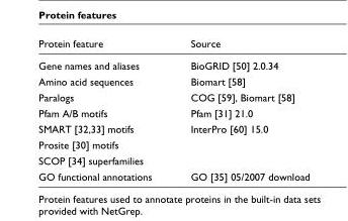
<table><thead><tr><td>Protein feature</td><td>Source</td></tr></thead><tbody><tr><td>Gene names and aliases</td><td>BioGRID [50] 2.0.34</td></tr><tr><td>Amino acid sequences</td><td>Biomart [58]</td></tr><tr><td>Paralogs</td><td>COG [59], Biomart [58]</td></tr><tr><td>Pfam A/B motifs</td><td>Pfam [31] 21.0</td></tr><tr><td>SMART [32,33] motifs</td><td>InterPro [60] 15.0</td></tr><tr><td colspan="2">Prosite [30] motifs</td></tr><tr><td colspan="2">SCOP [34] superfamilies</td></tr><tr><td>GO functional annotations</td><td>GO [35] 05/2007 download</td></tr></tbody></table>